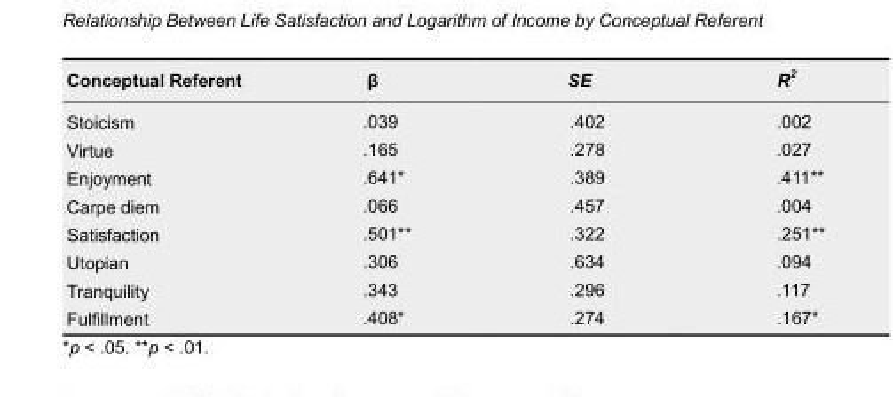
<table><thead><tr><td>Conceptual Referent</td><td>β</td><td>SE</td><td>R <sup>2</sup></td></tr></thead><tbody><tr><td>Stoicism</td><td>.039</td><td>.402</td><td>.002</td></tr><tr><td>Virtue</td><td>.165</td><td>.278</td><td>.027</td></tr><tr><td>Enjoyment</td><td>.641*</td><td>.389</td><td>.411**</td></tr><tr><td>Carpe diem</td><td>.066</td><td>.457</td><td>.004</td></tr><tr><td>Satisfaction</td><td>.501**</td><td>.322</td><td>.251**</td></tr><tr><td>Utopian</td><td>.306</td><td>.634</td><td>.094</td></tr><tr><td>Tranquility</td><td>.343</td><td>.296</td><td>.117</td></tr><tr><td>Fulfillment</td><td>.408*</td><td>.274</td><td>.167*</td></tr></tbody></table>